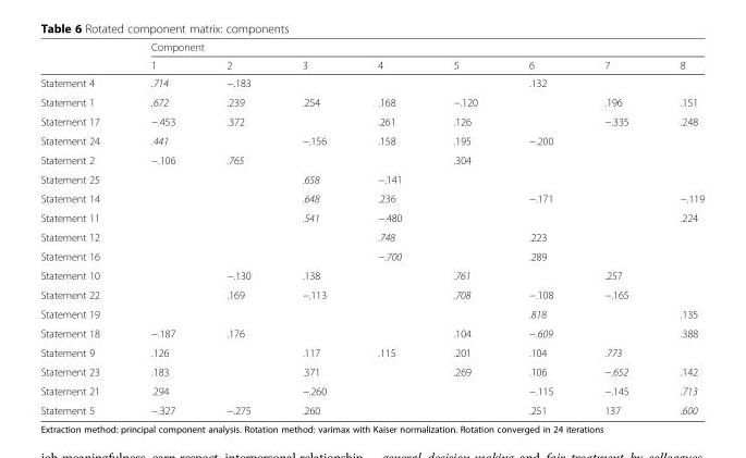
<table><thead><tr><td rowspan="2"></td><td colspan="8">Component</td></tr><tr><td>1</td><td>2</td><td>3</td><td>4</td><td>5</td><td>6</td><td>7</td><td>8</td></tr></thead><tbody><tr><td>Statement 4</td><td>.714</td><td>−.183</td><td></td><td></td><td></td><td>.132</td><td></td><td></td></tr><tr><td>Statement 1</td><td>.672</td><td>.239</td><td>.254</td><td>.168</td><td>−.120</td><td></td><td>.196</td><td>.151</td></tr><tr><td>Statement 17</td><td>−.453</td><td>.372</td><td></td><td>.261</td><td>.126</td><td></td><td>−.335</td><td>.248</td></tr><tr><td>Statement 24</td><td>.441</td><td></td><td>−.156</td><td>.158</td><td>.195</td><td>−.200</td><td></td><td></td></tr><tr><td>Statement 2</td><td>−.106</td><td>.765</td><td></td><td></td><td>.304</td><td></td><td></td><td></td></tr><tr><td>Statement 25</td><td></td><td></td><td>.658</td><td>−.141</td><td></td><td></td><td></td><td></td></tr><tr><td>Statement 14</td><td></td><td></td><td>.648</td><td>.236</td><td></td><td>−.171</td><td></td><td>−.119</td></tr><tr><td>Statement 11</td><td></td><td></td><td>.541</td><td>−.480</td><td></td><td></td><td></td><td>.224</td></tr><tr><td>Statement 12</td><td></td><td></td><td></td><td>.748</td><td></td><td>.223</td><td></td><td></td></tr><tr><td>Statement 16</td><td></td><td></td><td></td><td>−.700</td><td></td><td>.289</td><td></td><td></td></tr><tr><td>Statement 10</td><td></td><td>−.130</td><td>.138</td><td></td><td>.761</td><td></td><td>.257</td><td></td></tr><tr><td>Statement 22</td><td></td><td>.169</td><td>−.113</td><td></td><td>.708</td><td>−.108</td><td>−.165</td><td></td></tr><tr><td>Statement 19</td><td></td><td></td><td></td><td></td><td></td><td>.818</td><td></td><td>.135</td></tr><tr><td>Statement 18</td><td>−.187</td><td>.176</td><td></td><td></td><td>.104</td><td>−.609</td><td></td><td>.388</td></tr><tr><td>Statement 9</td><td>.126</td><td></td><td>.117</td><td>.115</td><td>.201</td><td>.104</td><td>.773</td><td></td></tr><tr><td>Statement 23</td><td>.183</td><td></td><td>.371</td><td></td><td>.269</td><td>.106</td><td>−.652</td><td>.142</td></tr><tr><td>Statement 21</td><td>.294</td><td></td><td>−.260</td><td></td><td></td><td>−.115</td><td>−.145</td><td>.713</td></tr><tr><td>Statement 5</td><td>−.327</td><td>−.275</td><td>.260</td><td></td><td></td><td>.251</td><td>137</td><td>.600</td></tr></tbody></table>